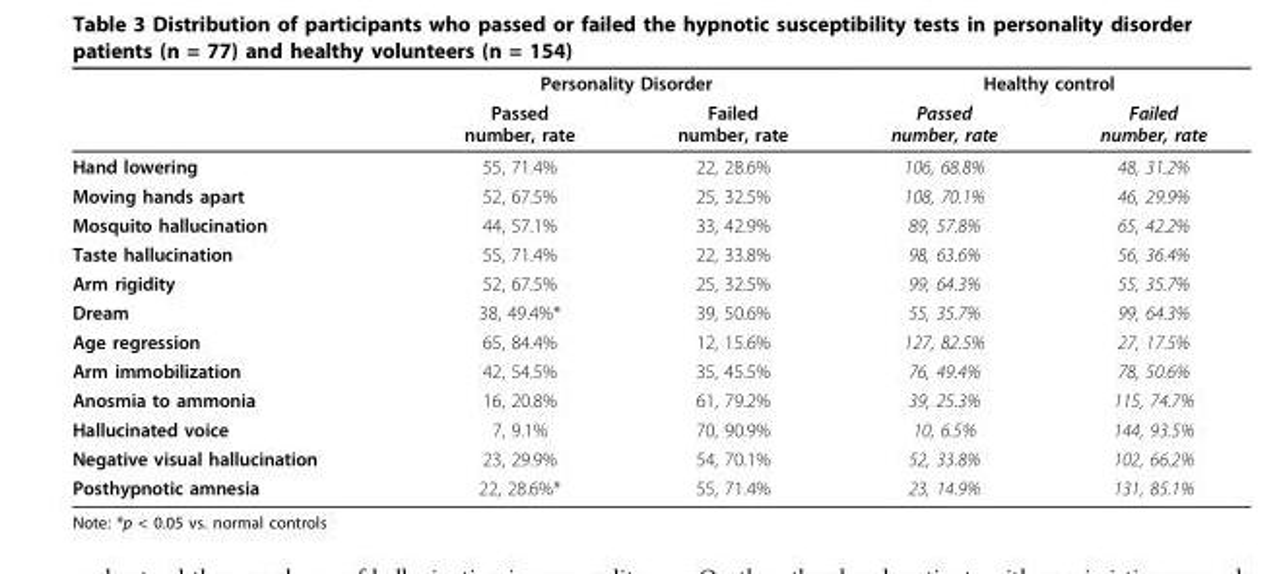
<table><thead><tr><td rowspan="2"></td><td colspan="2">Personality Disorder</td><td colspan="2">Healthy control</td></tr><tr><td>Passed number, rate</td><td>Failed number, rate</td><td>Passed number, rate</td><td>Failed number, rate</td></tr></thead><tbody><tr><td>Hand lowering</td><td>55, 71.4%</td><td>22, 28.6%</td><td>106, 68.8%</td><td>48, 31.2%</td></tr><tr><td>Moving hands apart</td><td>52, 67.5%</td><td>25, 32.5%</td><td>108, 70.1%</td><td>46, 29.9%</td></tr><tr><td>Mosquito hallucination</td><td>44, 57.1%</td><td>33, 42.9%</td><td>89, 57.8%</td><td>65, 42.2%</td></tr><tr><td>Taste hallucination</td><td>55, 71.4%</td><td>22, 33.8%</td><td>98, 63.6%</td><td>56, 36.4%</td></tr><tr><td>Arm rigidity</td><td>52, 67.5%</td><td>25, 32.5%</td><td>99, 64.3%</td><td>55, 35.7%</td></tr><tr><td>Dream</td><td>38, 49.4%*</td><td>39, 50.6%</td><td>55, 35.7%</td><td>99, 64.3%</td></tr><tr><td>Age regression</td><td>65, 84.4%</td><td>12, 15.6%</td><td>127, 82.5%</td><td>27, 17.5%</td></tr><tr><td>Arm immobilization</td><td>42, 54.5%</td><td>35, 45.5%</td><td>76, 49.4%</td><td>78, 50.6%</td></tr><tr><td>Anosmia to ammonia</td><td>16, 20.8%</td><td>61, 79.2%</td><td>39, 25.3%</td><td>115, 74.7%</td></tr><tr><td>Hallucinated voice</td><td>7, 9.1%</td><td>70, 90.9%</td><td>10, 6.5%</td><td>144, 93.5%</td></tr><tr><td>Negative visual hallucination</td><td>23, 29.9%</td><td>54, 70.1%</td><td>52, 33.8%</td><td>102, 66.2%</td></tr><tr><td>Posthypnotic amnesia</td><td>22, 28.6%*</td><td>55, 71.4%</td><td>23, 14.9%</td><td>131, 85.1%</td></tr></tbody></table>